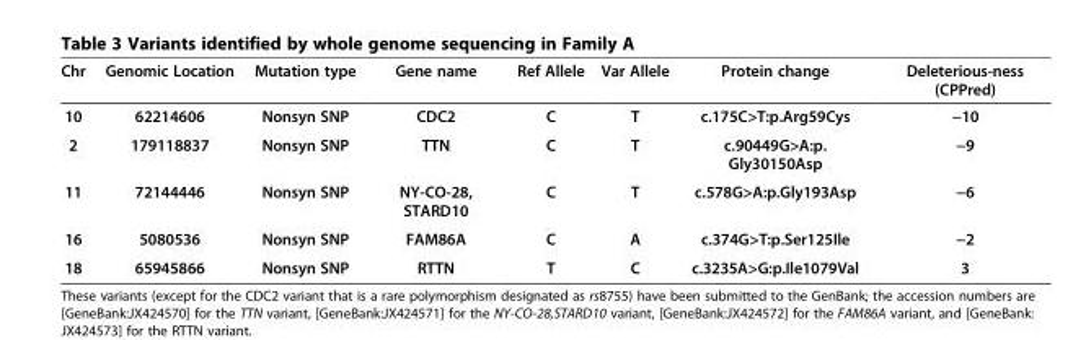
<table><thead><tr><td>Chr</td><td>Genomic Location</td><td>Mutation type</td><td>Gene name</td><td>Ref Allele</td><td>Var Allele</td><td>Protein change</td><td>Deleterious-ness (CPPred)</td></tr></thead><tbody><tr><td>10</td><td>62214606</td><td>Nonsyn SNP</td><td>CDC2</td><td>C</td><td>T</td><td>c.175C&gt;T:p.Arg59Cys</td><td>−10</td></tr><tr><td>2</td><td>179118837</td><td>Nonsyn SNP</td><td>TTN</td><td>C</td><td>T</td><td>c.90449G&gt;A:p. Gly30150Asp</td><td>−9</td></tr><tr><td>11</td><td>72144446</td><td>Nonsyn SNP</td><td>NY-CO-28, STARD10</td><td>C</td><td>T</td><td>c.578G&gt;A:p.Gly193Asp</td><td>−6</td></tr><tr><td>16</td><td>5080536</td><td>Nonsyn SNP</td><td>FAM86A</td><td>C</td><td>A</td><td>c.374G&gt;T:p.Ser125Ile</td><td>−2</td></tr><tr><td>18</td><td>65945866</td><td>Nonsyn SNP</td><td>RTTN</td><td>T</td><td>C</td><td>c.3235A&gt;G:p.Ile1079Val</td><td>3</td></tr></tbody></table>